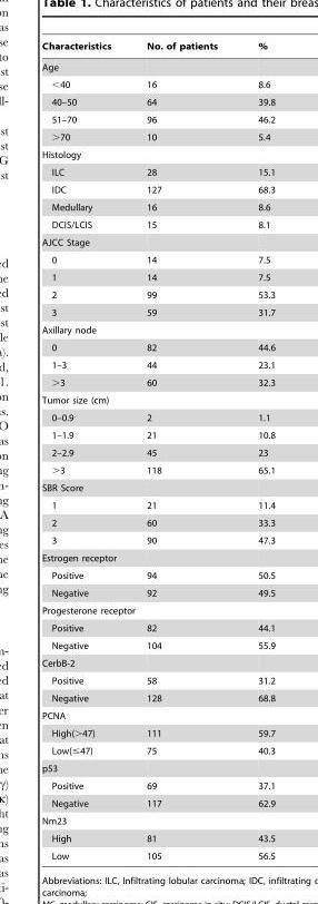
<table><thead><tr><td>Characteristics</td><td>No. of patients</td><td>%</td></tr></thead><tbody><tr><td colspan="3">Age</td></tr><tr><td>&lt;40</td><td>16</td><td>8.6</td></tr><tr><td>40–50</td><td>64</td><td>39.8</td></tr><tr><td>51–70</td><td>96</td><td>46.2</td></tr><tr><td>&gt;70</td><td>10</td><td>5.4</td></tr><tr><td colspan="3">Histology</td></tr><tr><td>ILC</td><td>28</td><td>15.1</td></tr><tr><td>IDC</td><td>127</td><td>68.3</td></tr><tr><td>Medullary</td><td>16</td><td>8.6</td></tr><tr><td>DCIS/LCIS</td><td>15</td><td>8.1</td></tr><tr><td colspan="3">AJCC Stage</td></tr><tr><td>0</td><td>14</td><td>7.5</td></tr><tr><td>1</td><td>14</td><td>7.5</td></tr><tr><td>2</td><td>99</td><td>53.3</td></tr><tr><td>3</td><td>59</td><td>31.7</td></tr><tr><td colspan="3">Axillary node</td></tr><tr><td>0</td><td>82</td><td>44.6</td></tr><tr><td>1–3</td><td>44</td><td>23.1</td></tr><tr><td>&gt;3</td><td>60</td><td>32.3</td></tr><tr><td colspan="3">Tumor size (cm)</td></tr><tr><td>0–0.9</td><td>2</td><td>1.1</td></tr><tr><td>1–1.9</td><td>21</td><td>10.8</td></tr><tr><td>2–2.9</td><td>45</td><td>23</td></tr><tr><td>&gt;3</td><td>118</td><td>65.1</td></tr><tr><td colspan="3">SBR Score</td></tr><tr><td>1</td><td>21</td><td>11.4</td></tr><tr><td>2</td><td>60</td><td>33.3</td></tr><tr><td>3</td><td>90</td><td>47.3</td></tr><tr><td colspan="3">Estrogen receptor</td></tr><tr><td>Positive</td><td>94</td><td>50.5</td></tr><tr><td>Negative</td><td>92</td><td>49.5</td></tr><tr><td colspan="3">Progesterone receptor</td></tr><tr><td>Positive</td><td>82</td><td>44.1</td></tr><tr><td>Negative</td><td>104</td><td>55.9</td></tr><tr><td colspan="3">CerbB-2</td></tr><tr><td>Positive</td><td>58</td><td>31.2</td></tr><tr><td>Negative</td><td>128</td><td>68.8</td></tr><tr><td colspan="3">PCNA</td></tr><tr><td>High(&gt;47)</td><td>111</td><td>59.7</td></tr><tr><td>Low(≤47)</td><td>75</td><td>40.3</td></tr><tr><td colspan="3">p53</td></tr><tr><td>Positive</td><td>69</td><td>37.1</td></tr><tr><td>Negative</td><td>117</td><td>62.9</td></tr><tr><td colspan="3">Nm23</td></tr><tr><td>High</td><td>81</td><td>43.5</td></tr><tr><td>Low</td><td>105</td><td>56.5</td></tr></tbody></table>